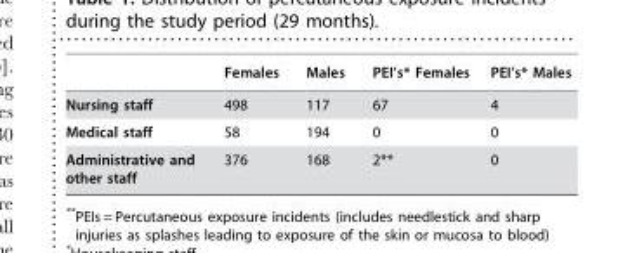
<table><thead><tr><td></td><td>Females</td><td>Males</td><td>PEI’s* Females</td><td>PEI’s* Males</td></tr></thead><tbody><tr><td>Nursing staff</td><td>498</td><td>117</td><td>67</td><td>4</td></tr><tr><td>Medical staff</td><td>58</td><td>194</td><td>0</td><td>0</td></tr><tr><td>Administrative and other staff</td><td>376</td><td>168</td><td>2**</td><td>0</td></tr></tbody></table>